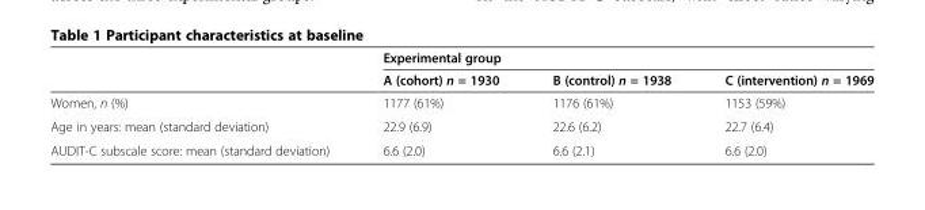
<table><thead><tr><td rowspan="2"></td><td colspan="3">Experimental group</td></tr><tr><td>A (cohort) n = 1930</td><td>B (control) n = 1938</td><td>C (intervention) n = 1969</td></tr></thead><tbody><tr><td>Women, n (%)</td><td>1177 (61%)</td><td>1176 (61%)</td><td>1153 (59%)</td></tr><tr><td>Age in years: mean (standard deviation)</td><td>22.9 (6.9)</td><td>22.6 (6.2)</td><td>22.7 (6.4)</td></tr><tr><td>AUDIT-C subscale score: mean (standard deviation)</td><td>6.6 (2.0)</td><td>6.6 (2.1)</td><td>6.6 (2.0)</td></tr></tbody></table>